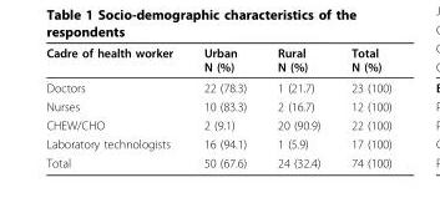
<table><thead><tr><td>Cadre of health worker</td><td>Urban N (%)</td><td>Rural N (%)</td><td>Total N (%)</td></tr></thead><tbody><tr><td>Doctors</td><td>22 (78.3)</td><td>1 (21.7)</td><td>23 (100)</td></tr><tr><td>Nurses</td><td>10 (83.3)</td><td>2 (16.7)</td><td>12 (100)</td></tr><tr><td>CHEW/CHO</td><td>2 (9.1)</td><td>20 (90.9)</td><td>22 (100)</td></tr><tr><td>Laboratory technologists</td><td>16 (94.1)</td><td>1 (5.9)</td><td>17 (100)</td></tr><tr><td>Total</td><td>50 (67.6)</td><td>24 (32.4)</td><td>74 (100)</td></tr></tbody></table>